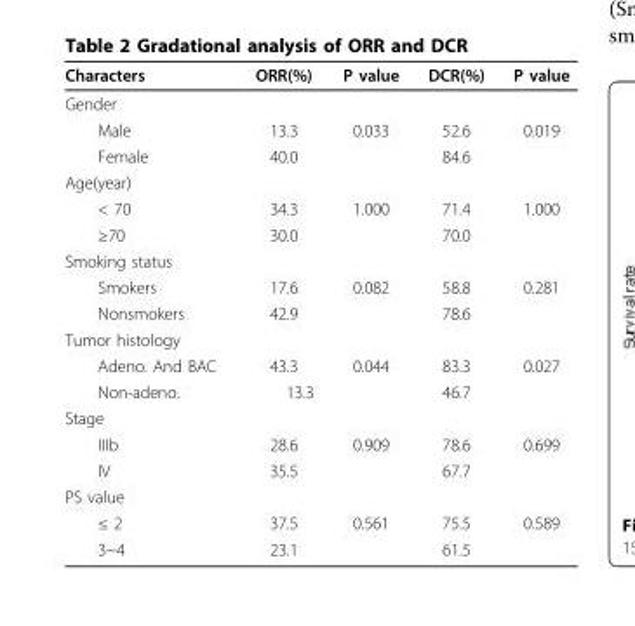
<table><thead><tr><td>Characters</td><td>ORR(%)</td><td>P value</td><td>DCR(%)</td><td>P value</td></tr></thead><tbody><tr><td colspan="5">Gender</td></tr><tr><td>Male</td><td>13.3</td><td>0.033</td><td>52.6</td><td>0.019</td></tr><tr><td>Female</td><td>40.0</td><td></td><td>84.6</td><td></td></tr><tr><td colspan="5">Age(year)</td></tr><tr><td>&lt; 70</td><td>34.3</td><td>1.000</td><td>71.4</td><td>1.000</td></tr><tr><td>≥70</td><td>30.0</td><td></td><td>70.0</td><td></td></tr><tr><td colspan="5">Smoking status</td></tr><tr><td>Smokers</td><td>17.6</td><td>0.082</td><td>58.8</td><td>0.281</td></tr><tr><td>Nonsmokers</td><td>42.9</td><td></td><td>78.6</td><td></td></tr><tr><td colspan="5">Tumor histology</td></tr><tr><td>Adeno. And BAC</td><td>43.3</td><td>0.044</td><td>83.3</td><td>0.027</td></tr><tr><td>Non-adeno.</td><td>13.3</td><td></td><td>46.7</td><td></td></tr><tr><td colspan="5">Stage</td></tr><tr><td>IIIb</td><td>28.6</td><td>0.909</td><td>78.6</td><td>0.699</td></tr><tr><td>IV</td><td>35.5</td><td></td><td>67.7</td><td></td></tr><tr><td colspan="5">PS value</td></tr><tr><td>≤ 2</td><td>37.5</td><td>0.561</td><td>75.5</td><td>0.589</td></tr><tr><td>3~4</td><td>23.1</td><td></td><td>61.5</td><td></td></tr></tbody></table>